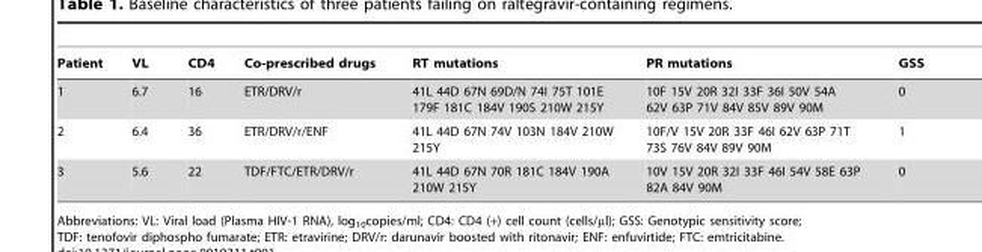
<table><thead><tr><td>Patient</td><td>VL</td><td>CD4</td><td>Co-prescribed drugs</td><td>RT mutations</td><td>PR mutations</td><td>GSS</td></tr></thead><tbody><tr><td>1</td><td>6.7</td><td>16</td><td>ETR/DRV/r</td><td>41L 44D 67N 69D/N 74I 75T 101E 179F 181C 184V 190S 210W 215Y</td><td>10F 15V 20R 32I 33F 36I 50V 54A 62V 63P 71V 84V 85V 89V 90M</td><td>0</td></tr><tr><td>2</td><td>6.4</td><td>36</td><td>ETR/DRV/r/ENF</td><td>41L 44D 67N 74V 103N 184V 210W 215Y</td><td>10F/V 15V 20R 33F 46I 62V 63P 71T 73S 76V 84V 89V 90M</td><td>1</td></tr><tr><td>3</td><td>5.6</td><td>22</td><td>TDF/FTC/ETR/DRV/r</td><td>41L 44D 67N 70R 181C 184V 190A 210W 215Y</td><td>10V 15V 20R 32I 33F 46I 54V 58E 63P 82A 84V 90M</td><td>0</td></tr></tbody></table>